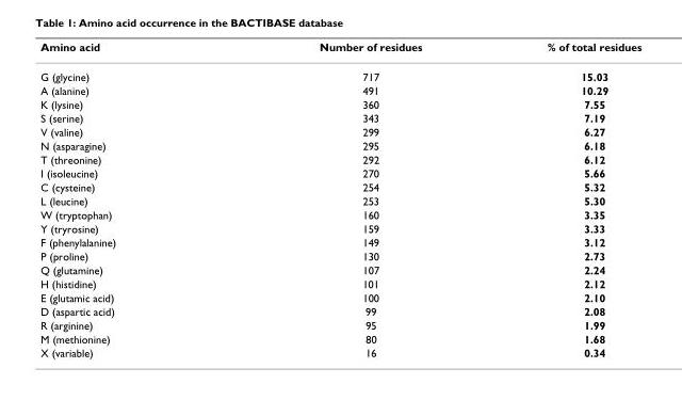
<table><thead><tr><td>Amino acid</td><td>Number of residues</td><td>% of total residues</td></tr></thead><tbody><tr><td>G (glycine)</td><td>717</td><td>15.03</td></tr><tr><td>A (alanine)</td><td>491</td><td>10.29</td></tr><tr><td>K (lysine)</td><td>360</td><td>7.55</td></tr><tr><td>S (serine)</td><td>343</td><td>7.19</td></tr><tr><td>V (valine)</td><td>299</td><td>6.27</td></tr><tr><td>N (asparagine)</td><td>295</td><td>6.18</td></tr><tr><td>T (threonine)</td><td>292</td><td>6.12</td></tr><tr><td>I (isoleucine)</td><td>270</td><td>5.66</td></tr><tr><td>C (cysteine)</td><td>254</td><td>5.32</td></tr><tr><td>L (leucine)</td><td>253</td><td>5.30</td></tr><tr><td>W (tryptophan)</td><td>160</td><td>3.35</td></tr><tr><td>Y (tryrosine)</td><td>159</td><td>3.33</td></tr><tr><td>F (phenylalanine)</td><td>149</td><td>3.12</td></tr><tr><td>P (proline)</td><td>130</td><td>2.73</td></tr><tr><td>Q (glutamine)</td><td>107</td><td>2.24</td></tr><tr><td>H (histidine)</td><td>101</td><td>2.12</td></tr><tr><td>E (glutamic acid)</td><td>100</td><td>2.10</td></tr><tr><td>D (aspartic acid)</td><td>99</td><td>2.08</td></tr><tr><td>R (arginine)</td><td>95</td><td>1.99</td></tr><tr><td>M (methionine)</td><td>80</td><td>1.68</td></tr><tr><td>X (variable)</td><td>16</td><td>0.34</td></tr></tbody></table>